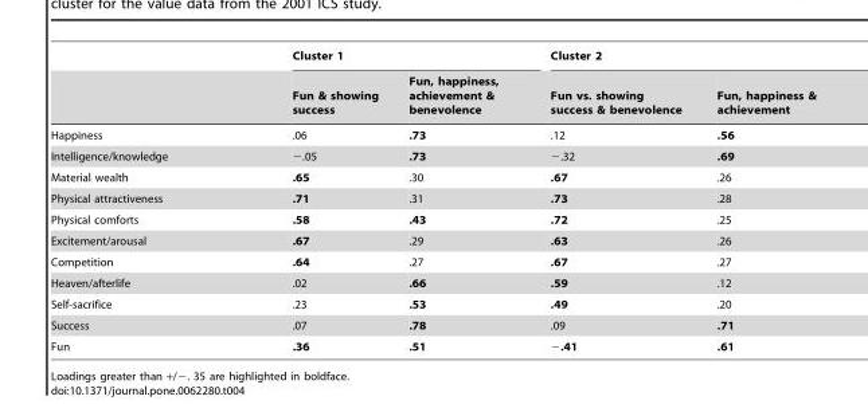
<table><thead><tr><td rowspan="2"></td><td colspan="2">Cluster 1</td><td colspan="2">Cluster 2</td></tr><tr><td>Fun &amp; showing success</td><td>Fun, happiness, achievement &amp; benevolence</td><td>Fun vs. showing success &amp; benevolence</td><td>Fun, happiness &amp; achievement</td></tr></thead><tbody><tr><td>Happiness</td><td>.06</td><td>.73</td><td>.12</td><td>.56</td></tr><tr><td>Intelligence/knowledge</td><td>−.05</td><td>.73</td><td>−.32</td><td>.69</td></tr><tr><td>Material wealth</td><td>.65</td><td>.30</td><td>.67</td><td>.26</td></tr><tr><td>Physical attractiveness</td><td>.71</td><td>.31</td><td>.73</td><td>.28</td></tr><tr><td>Physical comforts</td><td>.58</td><td>.43</td><td>.72</td><td>.25</td></tr><tr><td>Excitement/arousal</td><td>.67</td><td>.29</td><td>.63</td><td>.26</td></tr><tr><td>Competition</td><td>.64</td><td>.27</td><td>.67</td><td>.27</td></tr><tr><td>Heaven/afterlife</td><td>.02</td><td>.66</td><td>.59</td><td>.12</td></tr><tr><td>Self-sacrifice</td><td>.23</td><td>.53</td><td>.49</td><td>.20</td></tr><tr><td>Success</td><td>.07</td><td>.78</td><td>.09</td><td>.71</td></tr><tr><td>Fun</td><td>.36</td><td>.51</td><td>−.41</td><td>.61</td></tr></tbody></table>